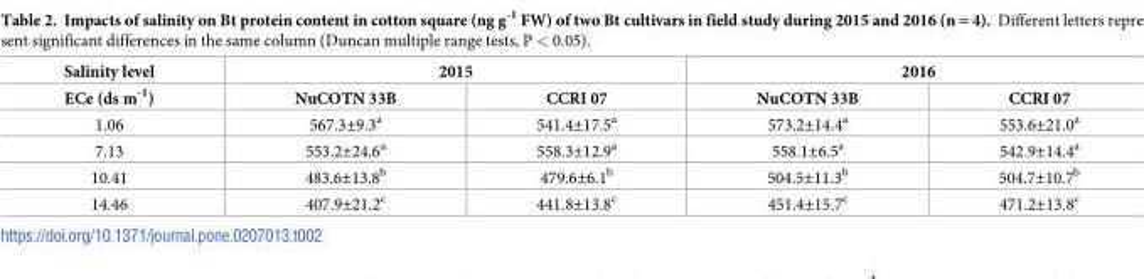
<table><thead><tr><td rowspan="2">Salinity level ECe (ds m<sup>-1</sup>)</td><td colspan="2">2015</td><td colspan="2">2016</td></tr><tr><td>NuCOTN 33B</td><td>CCRI 07</td><td>NuCOTN 33B</td><td>CCRI 07</td></tr></thead><tbody><tr><td>1.06</td><td>567.3±9.3<sup>a</sup></td><td>541.4±17.5<sup>a</sup></td><td>573.2±14.4<sup>a</sup></td><td>553.6±21.0<sup>a</sup></td></tr><tr><td>7.13</td><td>553.2±24.6<sup>a</sup></td><td>558.3±12.9<sup>a</sup></td><td>558.1±6.5<sup>a</sup></td><td>542.9±14.4<sup>a</sup></td></tr><tr><td>10.41</td><td>483.6±13.8<sup>b</sup></td><td>479.6±6.1<sup>b</sup></td><td>504.5±11.3<sup>b</sup></td><td>504.7±10.7<sup>b</sup></td></tr><tr><td>14.46</td><td>407.9±21.2<sup>c</sup></td><td>441.8±13.8<sup>c</sup></td><td>451.4±15.7<sup>c</sup></td><td>471.2±13.8<sup>c</sup></td></tr></tbody></table>